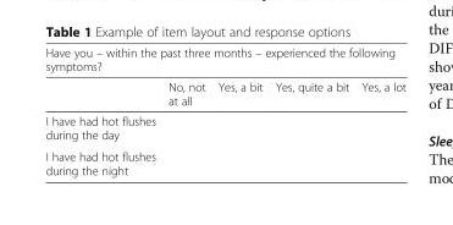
<table><thead><tr><td colspan="5">Have you – within the past three months – experienced the following symptoms?</td></tr><tr><td></td><td>No, not at all</td><td>Yes, a bit</td><td>Yes, quite a bit</td><td>Yes, a lot</td></tr></thead><tbody><tr><td>I have had hot flushes during the day</td><td rowspan="2"></td><td rowspan="2"></td><td rowspan="2"></td><td rowspan="2"></td></tr><tr><td>I have had hot flushes during the night</td></tr></tbody></table>